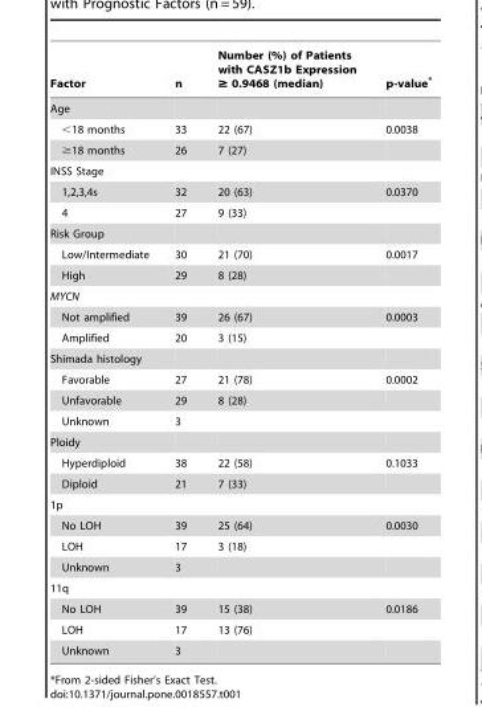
<table><thead><tr><td>Factor</td><td>n</td><td>Number (%) of Patients with CASZ1b Expression ≥ 0.9468 (median)</td><td>p-value*</td></tr></thead><tbody><tr><td colspan="4">Age</td></tr><tr><td>&lt;18 months</td><td>33</td><td>22 (67)</td><td>0.0038</td></tr><tr><td>≥18 months</td><td>26</td><td>7 (27)</td><td></td></tr><tr><td colspan="4">INSS Stage</td></tr><tr><td>1,2,3,4s</td><td>32</td><td>20 (63)</td><td>0.0370</td></tr><tr><td>4</td><td>27</td><td>9 (33)</td><td></td></tr><tr><td colspan="4">Risk Group</td></tr><tr><td>Low/Intermediate</td><td>30</td><td>21 (70)</td><td>0.0017</td></tr><tr><td>High</td><td>29</td><td>8 (28)</td><td></td></tr><tr><td colspan="4">MYCN</td></tr><tr><td>Not amplified</td><td>39</td><td>26 (67)</td><td>0.0003</td></tr><tr><td>Amplified</td><td>20</td><td>3 (15)</td><td></td></tr><tr><td colspan="4">Shimada histology</td></tr><tr><td>Favorable</td><td>27</td><td>21 (78)</td><td>0.0002</td></tr><tr><td>Unfavorable</td><td>29</td><td>8 (28)</td><td></td></tr><tr><td>Unknown</td><td>3</td><td></td><td></td></tr><tr><td colspan="4">Ploidy</td></tr><tr><td>Hyperdiploid</td><td>38</td><td>22 (58)</td><td>0.1033</td></tr><tr><td>Diploid</td><td>21</td><td>7 (33)</td><td></td></tr><tr><td colspan="4">1p</td></tr><tr><td>No LOH</td><td>39</td><td>25 (64)</td><td>0.0030</td></tr><tr><td>LOH</td><td>17</td><td>3 (18)</td><td></td></tr><tr><td>Unknown</td><td>3</td><td></td><td></td></tr><tr><td colspan="4">11q</td></tr><tr><td>No LOH</td><td>39</td><td>15 (38)</td><td>0.0186</td></tr><tr><td>LOH</td><td>17</td><td>13 (76)</td><td></td></tr><tr><td>Unknown</td><td>3</td><td></td><td></td></tr></tbody></table>